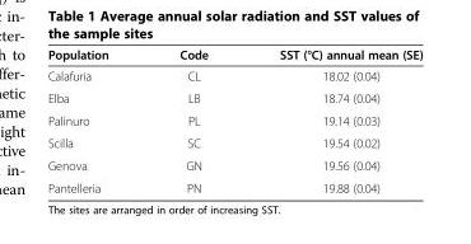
<table><thead><tr><td>Population</td><td>Code</td><td>SST (°C) annual mean (SE)</td></tr></thead><tbody><tr><td>Calafuria</td><td>CL</td><td>18.02 (0.04)</td></tr><tr><td>Elba</td><td>LB</td><td>18.74 (0.04)</td></tr><tr><td>Palinuro</td><td>PL</td><td>19.14 (0.03)</td></tr><tr><td>Scilla</td><td>SC</td><td>19.54 (0.02)</td></tr><tr><td>Genova</td><td>GN</td><td>19.56 (0.04)</td></tr><tr><td>Pantelleria</td><td>PN</td><td>19.88 (0.04)</td></tr></tbody></table>